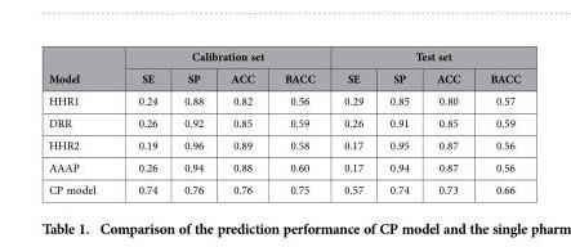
<table><thead><tr><td rowspan="2">Model</td><td colspan="4">Calibration set</td><td colspan="4">Test set</td></tr><tr><td>SE</td><td>SP</td><td>ACC</td><td>BACC</td><td>SE</td><td>SP</td><td>ACC</td><td>BACC</td></tr></thead><tbody><tr><td>HHR1</td><td>0.24</td><td>0.88</td><td>0.82</td><td>0.56</td><td>0.29</td><td>0.85</td><td>0.80</td><td>0.57</td></tr><tr><td>DRR</td><td>0.26</td><td>0.92</td><td>0.85</td><td>0.59</td><td>0.26</td><td>0.91</td><td>0.85</td><td>0.59</td></tr><tr><td>HHR2</td><td>0.19</td><td>0.96</td><td>0.89</td><td>0.58</td><td>0.17</td><td>0.95</td><td>0.87</td><td>0.56</td></tr><tr><td>AAAP</td><td>0.26</td><td>0.94</td><td>0.88</td><td>0.60</td><td>0.17</td><td>0.94</td><td>0.87</td><td>0.56</td></tr><tr><td>CP model</td><td>0.74</td><td>0.76</td><td>0.76</td><td>0.75</td><td>0.57</td><td>0.74</td><td>0.73</td><td>0.66</td></tr></tbody></table>